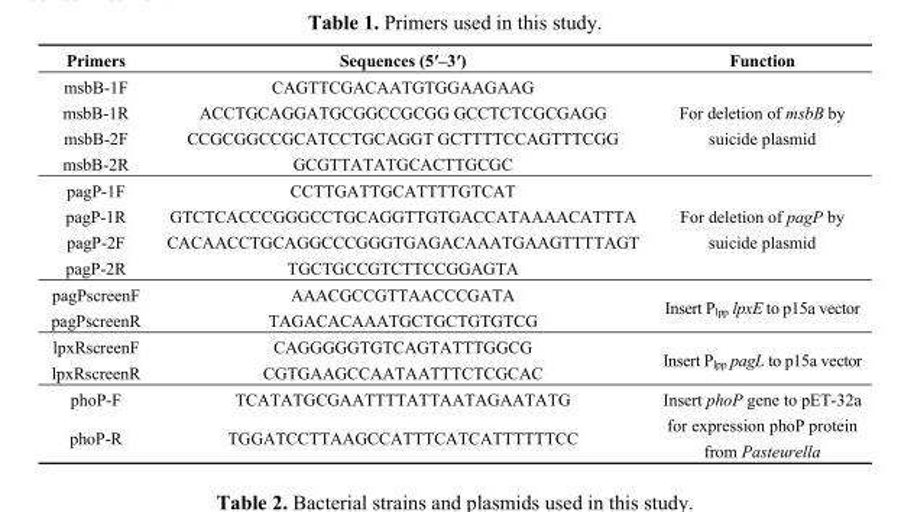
<table><thead><tr><td>Primers</td><td>Sequences (5′–3′)</td><td>Function</td></tr></thead><tbody><tr><td>msbB-1F</td><td>CAGTTCGACAATGTGGAAGAAG</td><td rowspan="4">For deletion of msbB by suicide plasmid</td></tr><tr><td>msbB-1R</td><td>ACCTGCAGGATGCGGCCGCGG GCCTCTCGCGAGG</td></tr><tr><td>msbB-2F</td><td>CCGCGGCCGCATCCTGCAGGT GCTTTTCCAGTTTCGG</td></tr><tr><td>msbB-2R</td><td>GCGTTATATGCACTTGCGC</td></tr><tr><td>pagP-1F</td><td>CCTTGATTGCATTTTGTCAT</td><td rowspan="4">For deletion of pagP by suicide plasmid</td></tr><tr><td>pagP-1R</td><td>GTCTCACCCGGGCCTGCAGGTTGTGACCATAAAACATTTA</td></tr><tr><td>pagP-2F</td><td>CACAACCTGCAGGCCCGGGTGAGACAAATGAAGTTTTAGT</td></tr><tr><td>pagP-2R</td><td>TGCTGCCGTCTTCCGGAGTA</td></tr><tr><td>pagPscreenF</td><td>AAACGCCGTTAACCCGATA</td><td rowspan="2">Insert P<sub>lpp</sub> lpxE to p15a vector</td></tr><tr><td>pagPscreenR</td><td>TAGACACAAATGCTGCTGTGTCG</td></tr><tr><td>lpxRscreenF</td><td>CAGGGGGTGTCAGTATTTGGCG</td><td rowspan="2">Insert P<sub>lpp</sub> pagL to p15a vector</td></tr><tr><td>lpxRscreenR</td><td>CGTGAAGCCAATAATTTCTCGCAC</td></tr><tr><td>phoP-F</td><td>TCATATGCGAATTTTATTAATAGAATATG</td><td rowspan="2">Insert phoP gene to pET-32a for expression phoP protein from Pasteurella</td></tr><tr><td>phoP-R</td><td>TGGATCCTTAAGCCATTTCATCATTTTTTCC</td></tr></tbody></table>